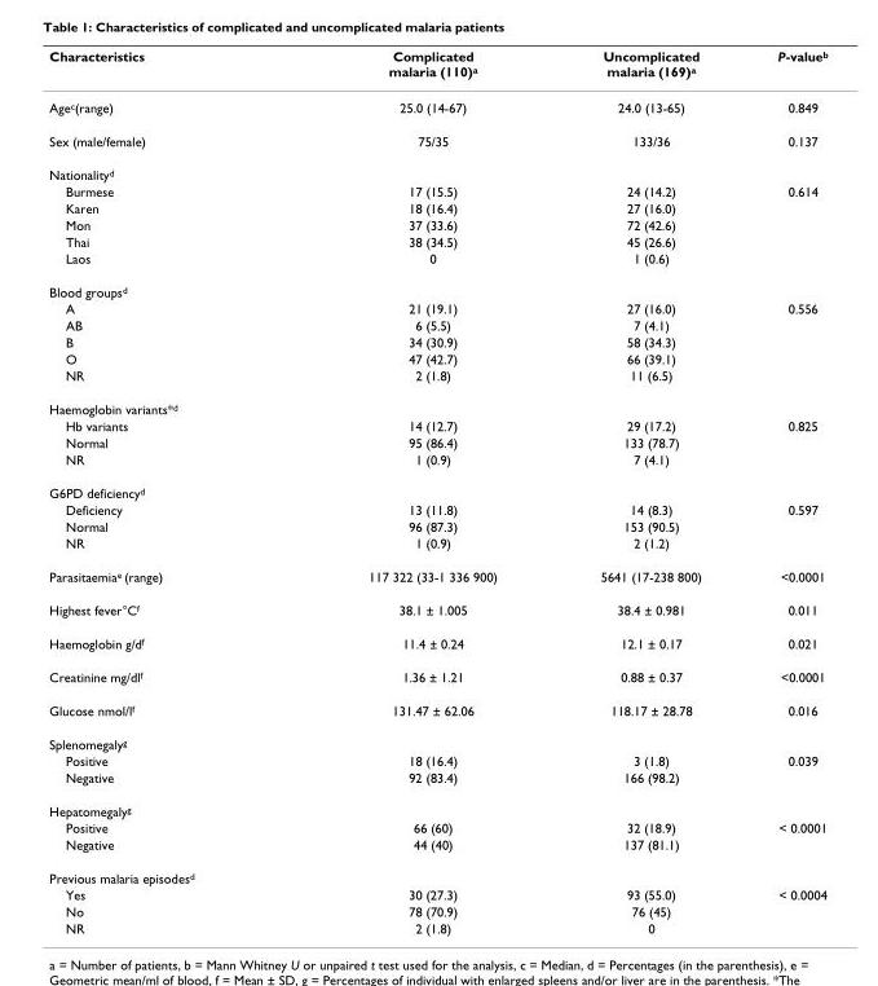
<table><thead><tr><td>Characteristics</td><td>Complicated malaria (110)<sup>a</sup></td><td>Uncomplicated malaria (169)<sup>a</sup></td><td>P-value<sup>b</sup></td></tr></thead><tbody><tr><td>Age<sup>c</sup>(range)</td><td>25.0 (14-67)</td><td>24.0 (13-65)</td><td>0.849</td></tr><tr><td>Sex (male/female)</td><td>75/35</td><td>133/36</td><td>0.137</td></tr><tr><td colspan="4">Nationality<sup>d</sup></td></tr><tr><td>Burmese</td><td>17 (15.5)</td><td>24 (14.2)</td><td>0.614</td></tr><tr><td>Karen</td><td>18 (16.4)</td><td>27 (16.0)</td><td></td></tr><tr><td>Mon</td><td>37 (33.6)</td><td>72 (42.6)</td><td></td></tr><tr><td>Thai</td><td>38 (34.5)</td><td>45 (26.6)</td><td></td></tr><tr><td>Laos</td><td>0</td><td>1 (0.6)</td><td></td></tr><tr><td colspan="4">Blood groups<sup>d</sup></td></tr><tr><td>A</td><td>21 (19.1)</td><td>27 (16.0)</td><td>0.556</td></tr><tr><td>AB</td><td>6 (5.5)</td><td>7 (4.1)</td><td></td></tr><tr><td>B</td><td>34 (30.9)</td><td>58 (34.3)</td><td></td></tr><tr><td>O</td><td>47 (42.7)</td><td>66 (39.1)</td><td></td></tr><tr><td>NR</td><td>2 (1.8)</td><td>11 (6.5)</td><td></td></tr><tr><td colspan="4">Haemoglobin variants*<sup>d</sup></td></tr><tr><td>Hb variants</td><td>14 (12.7)</td><td>29 (17.2)</td><td>0.825</td></tr><tr><td>Normal</td><td>95 (86.4)</td><td>133 (78.7)</td><td></td></tr><tr><td>NR</td><td>1 (0.9)</td><td>7 (4.1)</td><td></td></tr><tr><td colspan="4">G6PD deficiency<sup>d</sup></td></tr><tr><td>Deficiency</td><td>13 (11.8)</td><td>14 (8.3)</td><td>0.597</td></tr><tr><td>Normal</td><td>96 (87.3)</td><td>153 (90.5)</td><td></td></tr><tr><td>NR</td><td>1 (0.9)</td><td>2 (1.2)</td><td></td></tr><tr><td>Parasitaemia<sup>e</sup> (range)</td><td>117 322 (33-1 336 900)</td><td>5641 (17-238 800)</td><td>&lt;0.0001</td></tr><tr><td>Highest fever°C<sup>f</sup></td><td>38.1 ± 1.005</td><td>38.4 ± 0.981</td><td>0.011</td></tr><tr><td>Haemoglobin g/d<sup>f</sup></td><td>11.4 ± 0.24</td><td>12.1 ± 0.17</td><td>0.021</td></tr><tr><td>Creatinine mg/dl<sup>f</sup></td><td>1.36 ± 1.21</td><td>0.88 ± 0.37</td><td>&lt;0.0001</td></tr><tr><td>Glucose nmol/l<sup>f</sup></td><td>131.47 ± 62.06</td><td>118.17 ± 28.78</td><td>0.016</td></tr><tr><td colspan="4">Splenomegaly<sup>g</sup></td></tr><tr><td>Positive</td><td>18 (16.4)</td><td>3 (1.8)</td><td>0.039</td></tr><tr><td>Negative</td><td>92 (83.4)</td><td>166 (98.2)</td><td></td></tr><tr><td colspan="4">Hepatomegaly<sup>g</sup></td></tr><tr><td>Positive</td><td>66 (60)</td><td>32 (18.9)</td><td>&lt; 0.0001</td></tr><tr><td>Negative</td><td>44 (40)</td><td>137 (81.1)</td><td></td></tr><tr><td colspan="4">Previous malaria episodes<sup>d</sup></td></tr><tr><td>Yes</td><td>30 (27.3)</td><td>93 (55.0)</td><td>&lt; 0.0004</td></tr><tr><td>No</td><td>78 (70.9)</td><td>76 (45)</td><td></td></tr><tr><td>NR</td><td>2 (1.8)</td><td>0</td><td></td></tr></tbody></table>